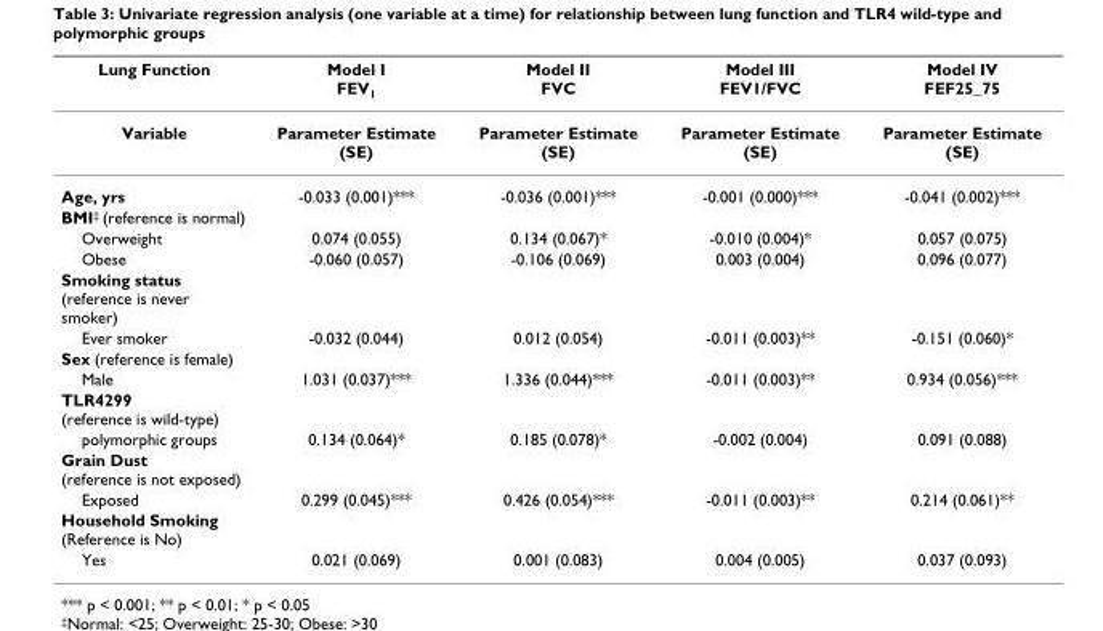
<table><thead><tr><td>Lung Function</td><td>Model I FEV<sub>1</sub></td><td>Model II FVC</td><td>Model III FEV1/FVC</td><td>Model IV FEF25_75</td></tr></thead><tbody><tr><td>Variable</td><td>Parameter Estimate (SE)</td><td>Parameter Estimate (SE)</td><td>Parameter Estimate (SE)</td><td>Parameter Estimate (SE)</td></tr><tr><td>Age, yrs</td><td>-0.033 (0.001)***</td><td>-0.036 (0.001)***</td><td>-0.001 (0.000)***</td><td>-0.041 (0.002)***</td></tr><tr><td colspan="5">BMI<sup>‡</sup> (reference is normal)</td></tr><tr><td>Overweight</td><td>0.074 (0.055)</td><td>0.134 (0.067)*</td><td>-0.010 (0.004)*</td><td>0.057 (0.075)</td></tr><tr><td>Obese</td><td>-0.060 (0.057)</td><td>-0.106 (0.069)</td><td>0.003 (0.004)</td><td>0.096 (0.077)</td></tr><tr><td colspan="5">Smoking status (reference is never smoker)</td></tr><tr><td>Ever smoker</td><td>-0.032 (0.044)</td><td>0.012 (0.054)</td><td>-0.011 (0.003)**</td><td>-0.151 (0.060)*</td></tr><tr><td colspan="5">Sex (reference is female)</td></tr><tr><td>Male</td><td>1.031 (0.037)***</td><td>1.336 (0.044)***</td><td>-0.011 (0.003)**</td><td>0.934 (0.056)***</td></tr><tr><td colspan="5">TLR4299 (reference is wild-type)</td></tr><tr><td>polymorphic groups</td><td>0.134 (0.064)*</td><td>0.185 (0.078)*</td><td>-0.002 (0.004)</td><td>0.091 (0.088)</td></tr><tr><td colspan="5">Grain Dust (reference is not exposed)</td></tr><tr><td>Exposed</td><td>0.299 (0.045)***</td><td>0.426 (0.054)***</td><td>-0.011 (0.003)**</td><td>0.214 (0.061)**</td></tr><tr><td colspan="5">Household Smoking (Reference is No)</td></tr><tr><td>Yes</td><td>0.021 (0.069)</td><td>0.001 (0.083)</td><td>0.004 (0.005)</td><td>0.037 (0.093)</td></tr></tbody></table>